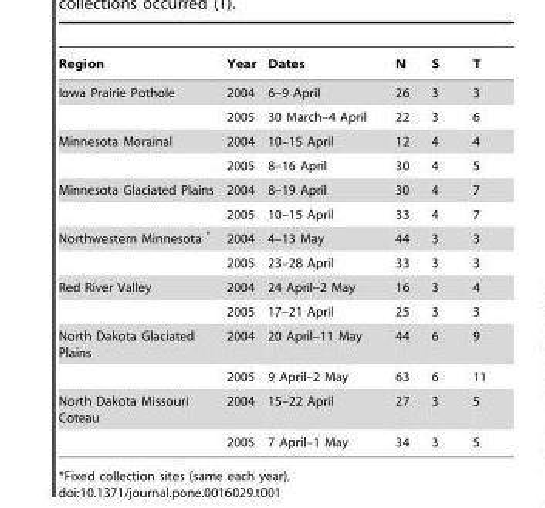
<table><thead><tr><td>Region</td><td>Year</td><td>Dates</td><td>N</td><td>S</td><td>T</td></tr></thead><tbody><tr><td rowspan="2">Iowa Prairie Pothole</td><td>2004</td><td>6–9 April</td><td>26</td><td>3</td><td>3</td></tr><tr><td>2005</td><td>30 March–4 April</td><td>22</td><td>3</td><td>6</td></tr><tr><td rowspan="2">Minnesota Morainal</td><td>2004</td><td>10–15 April</td><td>12</td><td>4</td><td>4</td></tr><tr><td>2005</td><td>8–16 April</td><td>30</td><td>4</td><td>5</td></tr><tr><td rowspan="2">Minnesota Glaciated Plains</td><td>2004</td><td>8–19 April</td><td>30</td><td>4</td><td>7</td></tr><tr><td>2005</td><td>10–15 April</td><td>33</td><td>4</td><td>7</td></tr><tr><td rowspan="2">Northwestern Minnesota *</td><td>2004</td><td>4–13 May</td><td>44</td><td>3</td><td>3</td></tr><tr><td>2005</td><td>23–28 April</td><td>33</td><td>3</td><td>3</td></tr><tr><td rowspan="2">Red River Valley</td><td>2004</td><td>24 April–2 May</td><td>16</td><td>3</td><td>4</td></tr><tr><td>2005</td><td>17–21 April</td><td>25</td><td>3</td><td>3</td></tr><tr><td rowspan="2">North Dakota Glaciated Plains</td><td>2004</td><td>20 April–11 May</td><td>44</td><td>6</td><td>9</td></tr><tr><td>2005</td><td>9 April–2 May</td><td>63</td><td>6</td><td>11</td></tr><tr><td rowspan="2">North Dakota Missouri Coteau</td><td>2004</td><td>15–22 April</td><td>27</td><td>3</td><td>5</td></tr><tr><td>2005</td><td>7 April–1 May</td><td>34</td><td>3</td><td>5</td></tr></tbody></table>